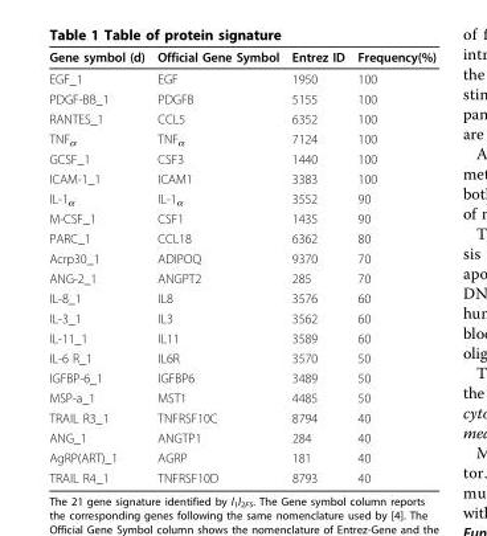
<table><thead><tr><td>Gene symbol (d)</td><td>Official Gene Symbol</td><td>Entrez ID</td><td>Frequency(%)</td></tr></thead><tbody><tr><td>EGF_1</td><td>EGF</td><td>1950</td><td>100</td></tr><tr><td>PDGF-BB_1</td><td>PDGFB</td><td>5155</td><td>100</td></tr><tr><td>RANTES_1</td><td>CCL5</td><td>6352</td><td>100</td></tr><tr><td>TNF<sub>α</sub></td><td>TNF<sub>α</sub></td><td>7124</td><td>100</td></tr><tr><td>GCSF_1</td><td>CSF3</td><td>1440</td><td>100</td></tr><tr><td>ICAM-1_1</td><td>ICAM1</td><td>3383</td><td>100</td></tr><tr><td>IL-1<sub>α</sub></td><td>IL-1<sub>α</sub></td><td>3552</td><td>90</td></tr><tr><td>M-CSF_1</td><td>CSF1</td><td>1435</td><td>90</td></tr><tr><td>PARC_1</td><td>CCL18</td><td>6362</td><td>80</td></tr><tr><td>Acrp30_1</td><td>ADIPOQ</td><td>9370</td><td>70</td></tr><tr><td>ANG-2_1</td><td>ANGPT2</td><td>285</td><td>70</td></tr><tr><td>IL-8_1</td><td>IL8</td><td>3576</td><td>60</td></tr><tr><td>IL-3_1</td><td>IL3</td><td>3562</td><td>60</td></tr><tr><td>IL-11_1</td><td>IL11</td><td>3589</td><td>60</td></tr><tr><td>IL-6 R_1</td><td>IL6R</td><td>3570</td><td>50</td></tr><tr><td>IGFBP-6_1</td><td>IGFBP6</td><td>3489</td><td>50</td></tr><tr><td>MSP-a_1</td><td>MST1</td><td>4485</td><td>50</td></tr><tr><td>TRAIL R3_1</td><td>TNFRSF10C</td><td>8794</td><td>40</td></tr><tr><td>ANG_1</td><td>ANGTP1</td><td>284</td><td>40</td></tr><tr><td>AgRP(ART)_1</td><td>AGRP</td><td>181</td><td>40</td></tr><tr><td>TRAIL R4_1</td><td>TNFRSF10D</td><td>8793</td><td>40</td></tr></tbody></table>